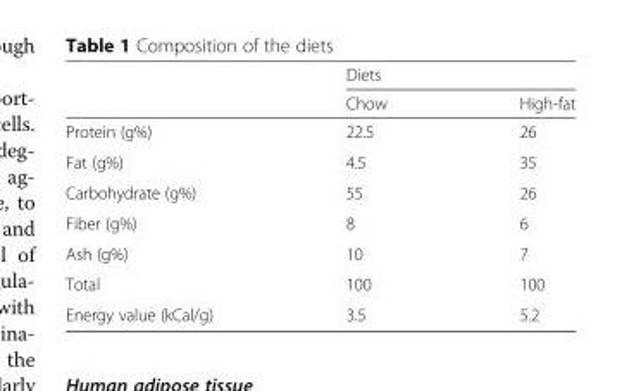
<table><thead><tr><td rowspan="2"></td><td colspan="2">Diets</td></tr><tr><td>Chow</td><td>High-fat</td></tr></thead><tbody><tr><td>Protein (g%)</td><td>22.5</td><td>26</td></tr><tr><td>Fat (g%)</td><td>4.5</td><td>35</td></tr><tr><td>Carbohydrate (g%)</td><td>55</td><td>26</td></tr><tr><td>Fiber (g%)</td><td>8</td><td>6</td></tr><tr><td>Ash (g%)</td><td>10</td><td>7</td></tr><tr><td>Total</td><td>100</td><td>100</td></tr><tr><td>Energy value (kCal/g)</td><td>3.5</td><td>5.2</td></tr></tbody></table>